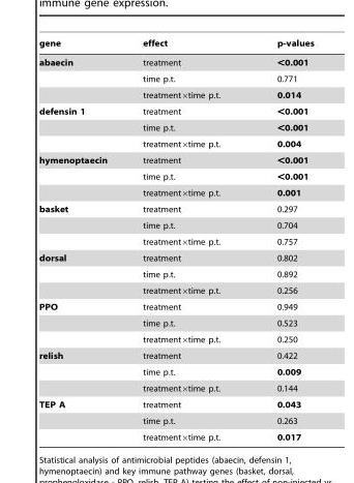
<table><thead><tr><td>gene</td><td>effect</td><td>p-values</td></tr></thead><tbody><tr><td rowspan="3">abaecin</td><td>treatment</td><td>&lt;0.001</td></tr><tr><td>time p.t.</td><td>0.771</td></tr><tr><td>treatment×time p.t.</td><td>0.014</td></tr><tr><td rowspan="3">defensin 1</td><td>treatment</td><td>&lt;0.001</td></tr><tr><td>time p.t.</td><td>&lt;0.001</td></tr><tr><td>treatment×time p.t.</td><td>0.004</td></tr><tr><td rowspan="3">hymenoptaecin</td><td>treatment</td><td>&lt;0.001</td></tr><tr><td>time p.t.</td><td>&lt;0.001</td></tr><tr><td>treatment×time p.t.</td><td>0.001</td></tr><tr><td rowspan="3">basket</td><td>treatment</td><td>0.297</td></tr><tr><td>time p.t.</td><td>0.704</td></tr><tr><td>treatment×time p.t.</td><td>0.757</td></tr><tr><td rowspan="3">dorsal</td><td>treatment</td><td>0.802</td></tr><tr><td>time p.t.</td><td>0.892</td></tr><tr><td>treatment×time p.t.</td><td>0.256</td></tr><tr><td rowspan="3">PPO</td><td>treatment</td><td>0.949</td></tr><tr><td>time p.t.</td><td>0.523</td></tr><tr><td>treatment×time p.t.</td><td>0.250</td></tr><tr><td rowspan="3">relish</td><td>treatment</td><td>0.422</td></tr><tr><td>time p.t.</td><td>0.009</td></tr><tr><td>treatment×time p.t.</td><td>0.144</td></tr><tr><td rowspan="3">TEP A</td><td>treatment</td><td>0.043</td></tr><tr><td>time p.t.</td><td>0.263</td></tr><tr><td>treatment×time p.t.</td><td>0.017</td></tr></tbody></table>